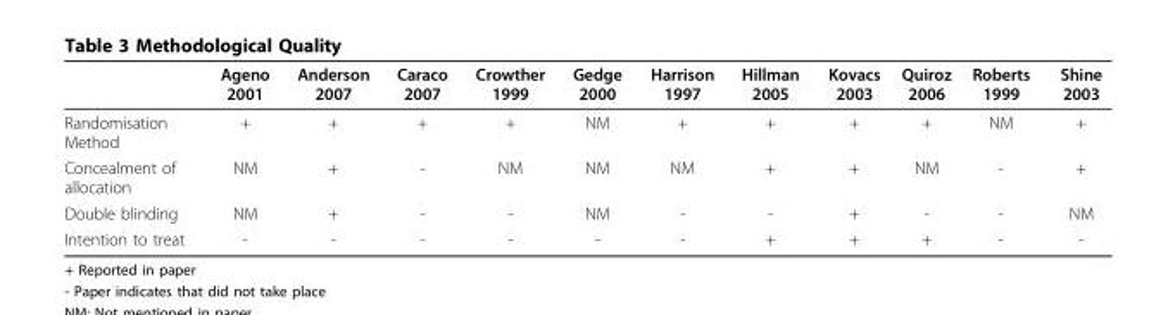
<table><thead><tr><td></td><td>Ageno 2001</td><td>Anderson 2007</td><td>Caraco 2007</td><td>Crowther 1999</td><td>Gedge 2000</td><td>Harrison 1997</td><td>Hillman 2005</td><td>Kovacs 2003</td><td>Quiroz 2006</td><td>Roberts 1999</td><td>Shine 2003</td></tr></thead><tbody><tr><td>Randomisation Method</td><td>+</td><td>+</td><td>+</td><td>+</td><td>NM</td><td>+</td><td>+</td><td>+</td><td>+</td><td>NM</td><td>+</td></tr><tr><td>Concealment of allocation</td><td>NM</td><td>+</td><td>-</td><td>NM</td><td>NM</td><td>NM</td><td>+</td><td>+</td><td>NM</td><td>-</td><td>+</td></tr><tr><td>Double blinding</td><td>NM</td><td>+</td><td>-</td><td>-</td><td>NM</td><td>-</td><td>-</td><td>+</td><td>-</td><td>-</td><td>NM</td></tr><tr><td>Intention to treat</td><td>-</td><td>-</td><td>-</td><td>-</td><td>-</td><td>-</td><td>+</td><td>+</td><td>+</td><td>-</td><td>-</td></tr></tbody></table>